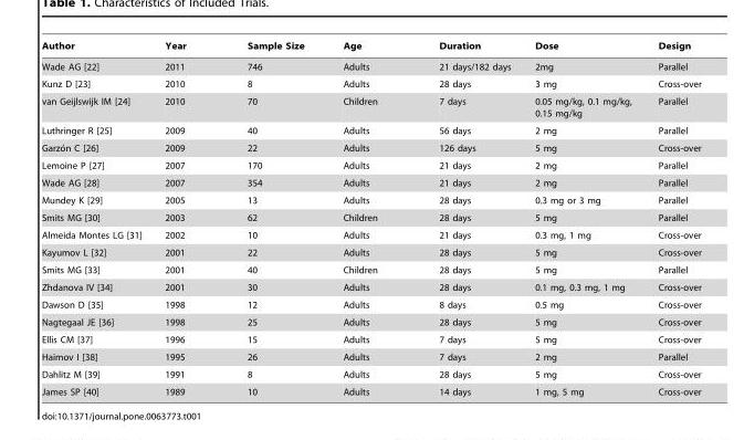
<table><thead><tr><td>Author</td><td>Year</td><td>Sample Size</td><td>Age</td><td>Duration</td><td>Dose</td><td>Design</td></tr></thead><tbody><tr><td>Wade AG [22]</td><td>2011</td><td>746</td><td>Adults</td><td>21 days/182 days</td><td>2mg</td><td>Parallel</td></tr><tr><td>Kunz D [23]</td><td>2010</td><td>8</td><td>Adults</td><td>28 days</td><td>3 mg</td><td>Cross-over</td></tr><tr><td>van Geijlswijk IM [24]</td><td>2010</td><td>70</td><td>Children</td><td>7 days</td><td>0.05 mg/kg, 0.1 mg/kg, 0.15 mg/kg</td><td>Parallel</td></tr><tr><td>Luthringer R [25]</td><td>2009</td><td>40</td><td>Adults</td><td>56 days</td><td>2 mg</td><td>Parallel</td></tr><tr><td>Garzo´n C [26]</td><td>2009</td><td>22</td><td>Adults</td><td>126 days</td><td>5 mg</td><td>Cross-over</td></tr><tr><td>Lemoine P [27]</td><td>2007</td><td>170</td><td>Adults</td><td>21 days</td><td>2 mg</td><td>Parallel</td></tr><tr><td>Wade AG [28]</td><td>2007</td><td>354</td><td>Adults</td><td>21 days</td><td>2 mg</td><td>Parallel</td></tr><tr><td>Mundey K [29]</td><td>2005</td><td>13</td><td>Adults</td><td>28 days</td><td>0.3 mg or 3 mg</td><td>Parallel</td></tr><tr><td>Smits MG [30]</td><td>2003</td><td>62</td><td>Children</td><td>28 days</td><td>5 mg</td><td>Parallel</td></tr><tr><td>Almeida Montes LG [31]</td><td>2002</td><td>10</td><td>Adults</td><td>21 days</td><td>0.3 mg, 1 mg</td><td>Cross-over</td></tr><tr><td>Kayumov L [32]</td><td>2001</td><td>22</td><td>Adults</td><td>28 days</td><td>5 mg</td><td>Cross-over</td></tr><tr><td>Smits MG [33]</td><td>2001</td><td>40</td><td>Children</td><td>28 days</td><td>5 mg</td><td>Parallel</td></tr><tr><td>Zhdanova IV [34]</td><td>2001</td><td>30</td><td>Adults</td><td>28 days</td><td>0.1 mg, 0.3 mg, 1 mg</td><td>Cross-over</td></tr><tr><td>Dawson D [35]</td><td>1998</td><td>12</td><td>Adults</td><td>8 days</td><td>0.5 mg</td><td>Cross-over</td></tr><tr><td>Nagtegaal JE [36]</td><td>1998</td><td>25</td><td>Adults</td><td>28 days</td><td>5 mg</td><td>Cross-over</td></tr><tr><td>Ellis CM [37]</td><td>1996</td><td>15</td><td>Adults</td><td>7 days</td><td>5 mg</td><td>Cross-over</td></tr><tr><td>Haimov I [38]</td><td>1995</td><td>26</td><td>Adults</td><td>7 days</td><td>2 mg</td><td>Parallel</td></tr><tr><td>Dahlitz M [39]</td><td>1991</td><td>8</td><td>Adults</td><td>28 days</td><td>5 mg</td><td>Cross-over</td></tr><tr><td>James SP [40]</td><td>1989</td><td>10</td><td>Adults</td><td>14 days</td><td>1 mg, 5 mg</td><td>Cross-over</td></tr></tbody></table>